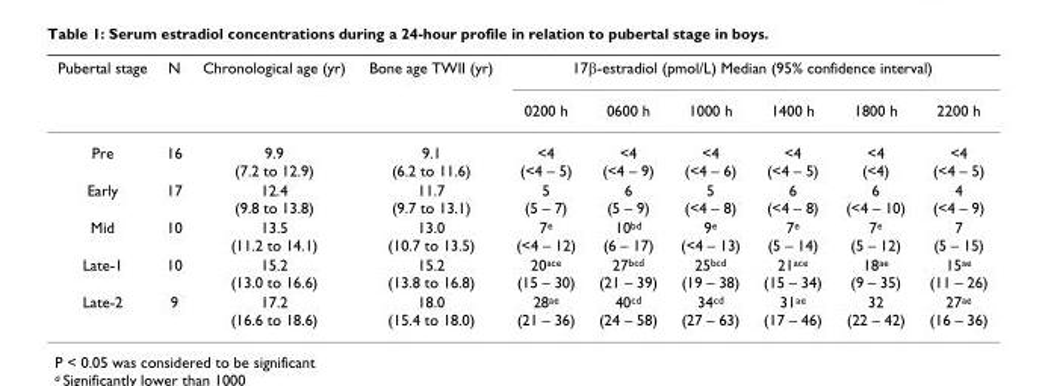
<table><thead><tr><td rowspan="2">Pubertal stage</td><td rowspan="2">N</td><td rowspan="2">Chronological age (yr)</td><td rowspan="2">Bone age TWII (yr)</td><td colspan="6">17β-estradiol (pmol/L) Median (95% confidence interval)</td></tr><tr><td>0200 h</td><td>0600 h</td><td>1000 h</td><td>1400 h</td><td>1800 h</td><td>2200 h</td></tr></thead><tbody><tr><td>Pre</td><td>16</td><td>9.9 (7.2 to 12.9)</td><td>9.1 (6.2 to 11.6)</td><td>&lt;4 (&lt;4 – 5)</td><td>&lt;4 (&lt;4 – 9)</td><td>&lt;4 (&lt;4 – 6)</td><td>&lt;4 (&lt;4 – 5)</td><td>&lt;4 (&lt;4)</td><td>&lt;4 (&lt;4 – 5)</td></tr><tr><td>Early</td><td>17</td><td>12.4 (9.8 to 13.8)</td><td>11.7 (9.7 to 13.1)</td><td>5 (5 – 7)</td><td>6 (5 – 9)</td><td>5 (&lt;4 – 8)</td><td>6 (&lt;4 – 8)</td><td>6 (&lt;4 – 10)</td><td>4 (&lt;4 – 9)</td></tr><tr><td>Mid</td><td>10</td><td>13.5 (11.2 to 14.1)</td><td>13.0 (10.7 to 13.5)</td><td>7<sup>e</sup> (&lt;4 – 12)</td><td>10<sup>bd</sup> (6 – 17)</td><td>9<sup>e</sup> (&lt;4 – 13)</td><td>7<sup>e</sup> (5 – 14)</td><td>7<sup>e</sup> (5 – 12)</td><td>7 (5 – 15)</td></tr><tr><td>Late-1</td><td>10</td><td>15.2 (13.0 to 16.6)</td><td>15.2 (13.8 to 16.8)</td><td>20<sup>ace</sup> (15 – 30)</td><td>27<sup>bcd</sup> (21 – 39)</td><td>25<sup>bcd</sup> (19 – 38)</td><td>21<sup>ace</sup> (15 – 34)</td><td>18<sup>ae</sup> (9 – 35)</td><td>15<sup>ae</sup> (11 – 26)</td></tr><tr><td>Late-2</td><td>9</td><td>17.2 (16.6 to 18.6)</td><td>18.0 (15.4 to 18.0)</td><td>28<sup>ae</sup> (21 – 36)</td><td>40<sup>cd</sup> (24 – 58)</td><td>34<sup>cd</sup> (27 – 63)</td><td>31<sup>ae</sup> (17 – 46)</td><td>32 (22 – 42)</td><td>27<sup>ae</sup> (16 – 36)</td></tr></tbody></table>